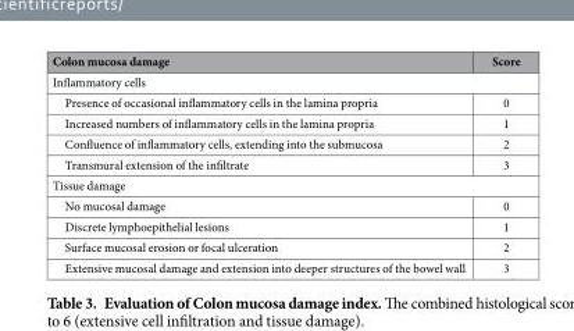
<table><thead><tr><td>Colon mucosa damage</td><td>Score</td></tr></thead><tbody><tr><td colspan="2">Inflammatory cells</td></tr><tr><td>Presence of occasional inflammatory cells in the lamina propria</td><td>0</td></tr><tr><td>Increased numbers of inflammatory cells in the lamina propria</td><td>1</td></tr><tr><td>Confluence of inflammatory cells, extending into the submucosa</td><td>2</td></tr><tr><td>Transmural extension of the infiltrate</td><td>3</td></tr><tr><td colspan="2">Tissue damage</td></tr><tr><td>No mucosal damage</td><td>0</td></tr><tr><td>Discrete lymphoepithelial lesions</td><td>1</td></tr><tr><td>Surface mucosal erosion or focal ulceration</td><td>2</td></tr><tr><td>Extensive mucosal damage and extension into deeper structures of the bowel wall</td><td>3</td></tr></tbody></table>